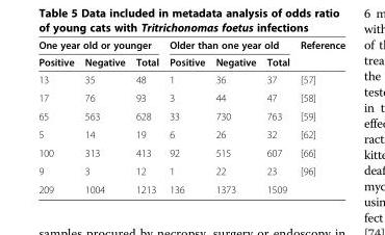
<table><thead><tr><td colspan="3">One year old or younger</td><td colspan="3">Older than one year old</td><td rowspan="2">Reference</td></tr><tr><td>Positive</td><td>Negative</td><td>Total</td><td>Positive</td><td>Negative</td><td>Total</td></tr></thead><tbody><tr><td>13</td><td>35</td><td>48</td><td>1</td><td>36</td><td>37</td><td>[57]</td></tr><tr><td>17</td><td>76</td><td>93</td><td>3</td><td>44</td><td>47</td><td>[58]</td></tr><tr><td>65</td><td>563</td><td>628</td><td>33</td><td>730</td><td>763</td><td>[59]</td></tr><tr><td>5</td><td>14</td><td>19</td><td>6</td><td>26</td><td>32</td><td>[62]</td></tr><tr><td>100</td><td>313</td><td>413</td><td>92</td><td>515</td><td>607</td><td>[66]</td></tr><tr><td>9</td><td>3</td><td>12</td><td>1</td><td>22</td><td>23</td><td>[96]</td></tr><tr><td>209</td><td>1004</td><td>1213</td><td>136</td><td>1373</td><td>1509</td><td></td></tr></tbody></table>